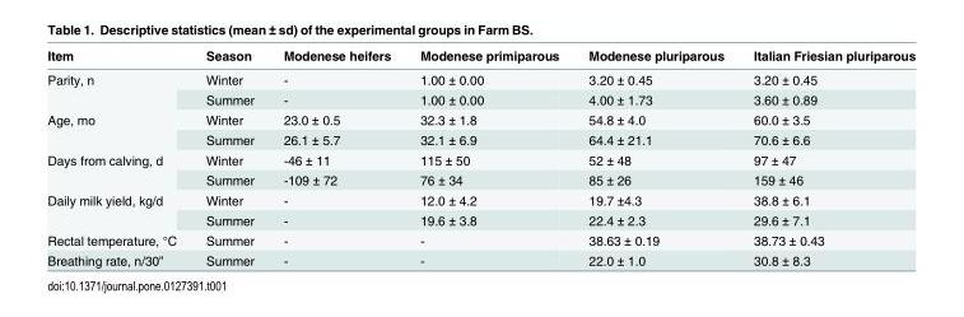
<table><thead><tr><td>Item</td><td>Season</td><td>Modenese heifers</td><td>Modenese primiparous</td><td>Modenese pluriparous</td><td>Italian Friesian pluriparous</td></tr></thead><tbody><tr><td rowspan="2">Parity, n</td><td>Winter</td><td>-</td><td>1.00 ± 0.00</td><td>3.20 ± 0.45</td><td>3.20 ± 0.45</td></tr><tr><td>Summer</td><td>-</td><td>1.00 ± 0.00</td><td>4.00 ± 1.73</td><td>3.60 ± 0.89</td></tr><tr><td rowspan="2">Age, mo</td><td>Winter</td><td>23.0 ± 0.5</td><td>32.3 ± 1.8</td><td>54.8 ± 4.0</td><td>60.0 ± 3.5</td></tr><tr><td>Summer</td><td>26.1 ± 5.7</td><td>32.1 ± 6.9</td><td>64.4 ± 21.1</td><td>70.6 ± 6.6</td></tr><tr><td rowspan="2">Days from calving, d</td><td>Winter</td><td>-46 ± 11</td><td>115 ± 50</td><td>52 ± 48</td><td>97 ± 47</td></tr><tr><td>Summer</td><td>-109 ± 72</td><td>76 ± 34</td><td>85 ± 26</td><td>159 ± 46</td></tr><tr><td rowspan="2">Daily milk yield, kg/d</td><td>Winter</td><td>-</td><td>12.0 ± 4.2</td><td>19.7 ±4.3</td><td>38.8 ± 6.1</td></tr><tr><td>Summer</td><td>-</td><td>19.6 ± 3.8</td><td>22.4 ± 2.3</td><td>29.6 ± 7.1</td></tr><tr><td>Rectal temperature, °C</td><td>Summer</td><td>-</td><td>-</td><td>38.63 ± 0.19</td><td>38.73 ± 0.43</td></tr><tr><td>Breathing rate, n/30”</td><td>Summer</td><td>-</td><td>-</td><td>22.0 ± 1.0</td><td>30.8 ± 8.3</td></tr></tbody></table>